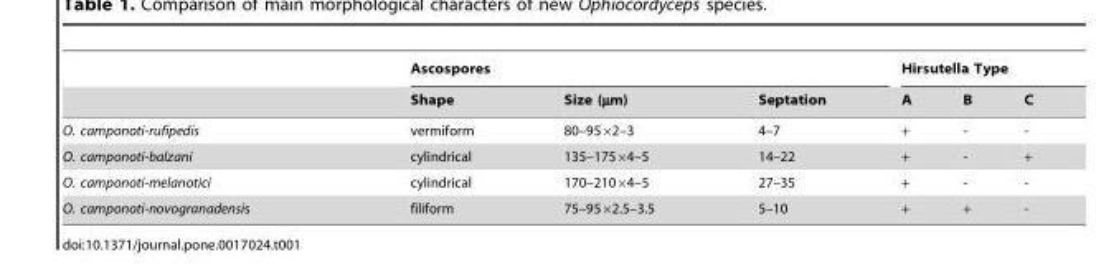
<table><thead><tr><td rowspan="2"></td><td colspan="3">Ascospores</td><td colspan="3">Hirsutella Type</td></tr><tr><td>Shape</td><td>Size (µm)</td><td>Septation</td><td>A</td><td>B</td><td>C</td></tr></thead><tbody><tr><td>O. camponoti-rufipedis</td><td>vermiform</td><td>80–95×2–3</td><td>4–7</td><td>+</td><td>-</td><td>-</td></tr><tr><td>O. camponoti-balzani</td><td>cylindrical</td><td>135–175×4–5</td><td>14–22</td><td>+</td><td>-</td><td>+</td></tr><tr><td>O. camponoti-melanotici</td><td>cylindrical</td><td>170–210×4–5</td><td>27–35</td><td>+</td><td>-</td><td>-</td></tr><tr><td>O. camponoti-novogranadensis</td><td>filiform</td><td>75–95×2.5–3.5</td><td>5–10</td><td>+</td><td>+</td><td>-</td></tr></tbody></table>